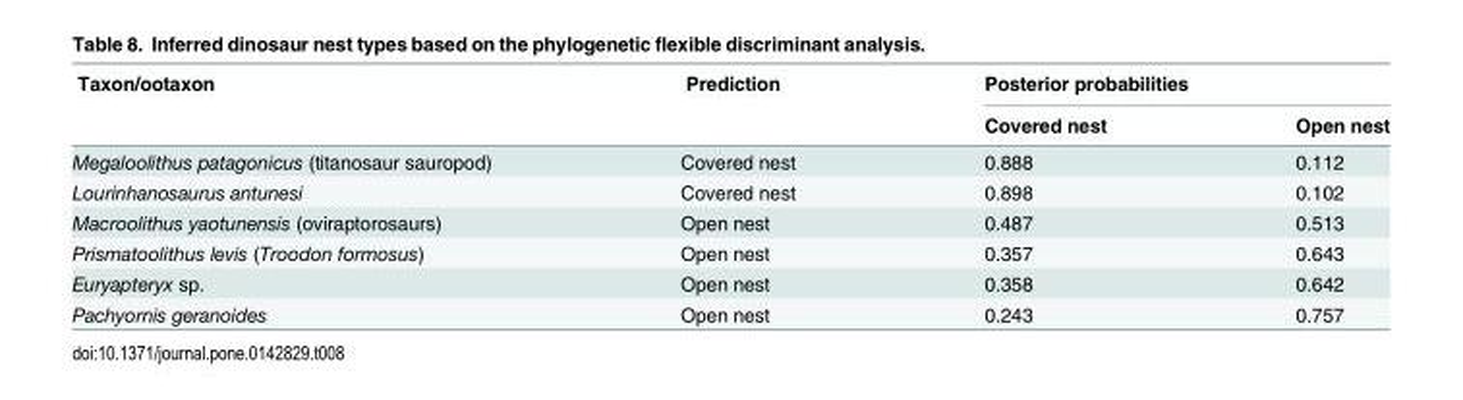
<table><thead><tr><td rowspan="2">Taxon/ootaxon</td><td rowspan="2">Prediction</td><td colspan="2">Posterior probabilities</td></tr><tr><td>Covered nest</td><td>Open nest</td></tr></thead><tbody><tr><td>Megaloolithus patagonicus (titanosaur sauropod)</td><td>Covered nest</td><td>0.888</td><td>0.112</td></tr><tr><td>Lourinhanosaurus antunesi</td><td>Covered nest</td><td>0.898</td><td>0.102</td></tr><tr><td>Macroolithus yaotunensis (oviraptorosaurs)</td><td>Open nest</td><td>0.487</td><td>0.513</td></tr><tr><td>Prismatoolithus levis (Troodon formosus)</td><td>Open nest</td><td>0.357</td><td>0.643</td></tr><tr><td>Euryapteryx sp.</td><td>Open nest</td><td>0.358</td><td>0.642</td></tr><tr><td>Pachyornis geranoides</td><td>Open nest</td><td>0.243</td><td>0.757</td></tr></tbody></table>